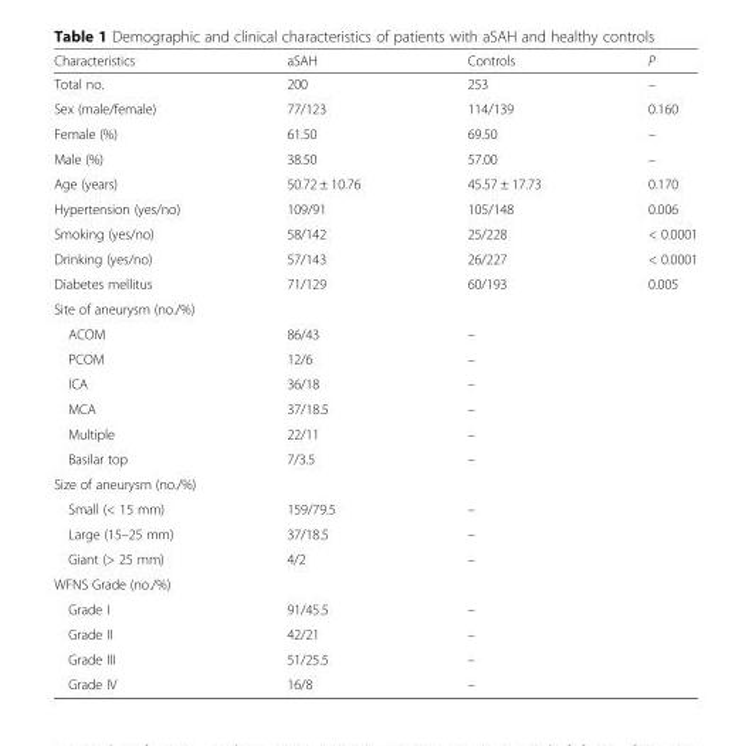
<table><thead><tr><td>Characteristics</td><td>aSAH</td><td>Controls</td><td>P</td></tr></thead><tbody><tr><td>Total no.</td><td>200</td><td>253</td><td>–</td></tr><tr><td>Sex (male/female)</td><td>77/123</td><td>114/139</td><td>0.160</td></tr><tr><td>Female (%)</td><td>61.50</td><td>69.50</td><td>–</td></tr><tr><td>Male (%)</td><td>38.50</td><td>57.00</td><td>–</td></tr><tr><td>Age (years)</td><td>50.72 ± 10.76</td><td>45.57 ± 17.73</td><td>0.170</td></tr><tr><td>Hypertension (yes/no)</td><td>109/91</td><td>105/148</td><td>0.006</td></tr><tr><td>Smoking (yes/no)</td><td>58/142</td><td>25/228</td><td>&lt; 0.0001</td></tr><tr><td>Drinking (yes/no)</td><td>57/143</td><td>26/227</td><td>&lt; 0.0001</td></tr><tr><td>Diabetes mellitus</td><td>71/129</td><td>60/193</td><td>0.005</td></tr><tr><td colspan="4">Site of aneurysm (no./%)</td></tr><tr><td>ACOM</td><td>86/43</td><td>–</td><td></td></tr><tr><td>PCOM</td><td>12/6</td><td>–</td><td></td></tr><tr><td>ICA</td><td>36/18</td><td>–</td><td></td></tr><tr><td>MCA</td><td>37/18.5</td><td>–</td><td></td></tr><tr><td>Multiple</td><td>22/11</td><td>–</td><td></td></tr><tr><td>Basilar top</td><td>7/3.5</td><td>–</td><td></td></tr><tr><td colspan="4">Size of aneurysm (no./%)</td></tr><tr><td>Small (&lt; 15 mm)</td><td>159/79.5</td><td>–</td><td></td></tr><tr><td>Large (15–25 mm)</td><td>37/18.5</td><td>–</td><td></td></tr><tr><td>Giant (&gt; 25 mm)</td><td>4/2</td><td>–</td><td></td></tr><tr><td colspan="4">WFNS Grade (no./%)</td></tr><tr><td>Grade I</td><td>91/45.5</td><td>–</td><td></td></tr><tr><td>Grade II</td><td>42/21</td><td>–</td><td></td></tr><tr><td>Grade III</td><td>51/25.5</td><td>–</td><td></td></tr><tr><td>Grade IV</td><td>16/8</td><td>–</td><td></td></tr></tbody></table>